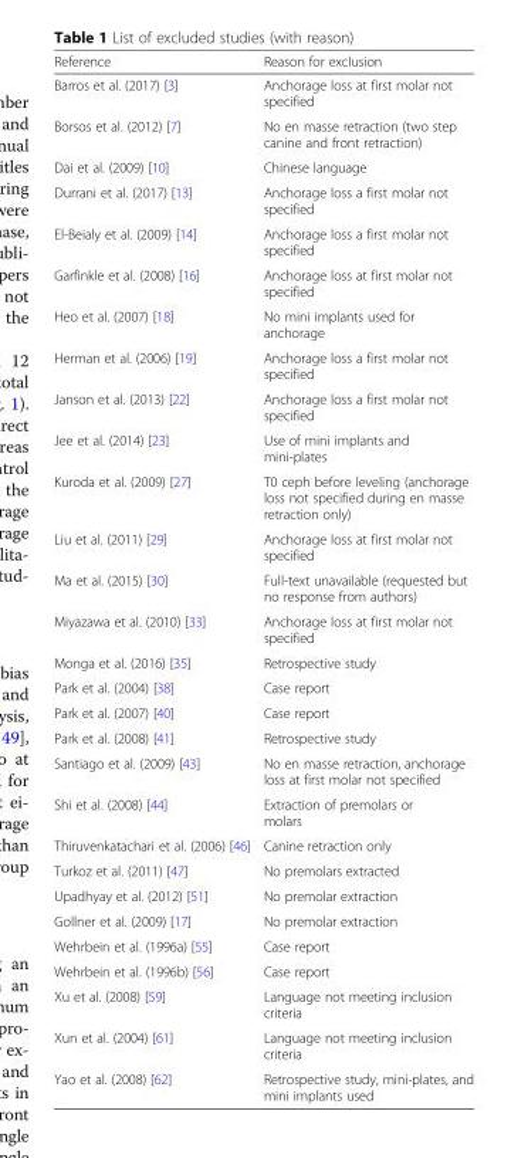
<table><thead><tr><td>Reference</td><td>Reason for exclusion</td></tr></thead><tbody><tr><td>Barros et al. (2017) [3]</td><td>Anchorage loss at first molar not specified</td></tr><tr><td>Borsos et al. (2012) [7]</td><td>No en masse retraction (two step canine and front retraction)</td></tr><tr><td>Dai et al. (2009) [10]</td><td>Chinese language</td></tr><tr><td>Durrani et al. (2017) [13]</td><td>Anchorage loss a first molar not specified</td></tr><tr><td>El-Beialy et al. (2009) [14]</td><td>Anchorage loss a first molar not specified</td></tr><tr><td>Garfinkle et al. (2008) [16]</td><td>Anchorage loss at first molar not specified</td></tr><tr><td>Heo et al. (2007) [18]</td><td>No mini implants used for anchorage</td></tr><tr><td>Herman et al. (2006) [19]</td><td>Anchorage loss a first molar not specified</td></tr><tr><td>Janson et al. (2013) [22]</td><td>Anchorage loss a first molar not specified</td></tr><tr><td>Jee et al. (2014) [23]</td><td>Use of mini implants and mini-plates</td></tr><tr><td>Kuroda et al. (2009) [27]</td><td>T0 ceph before leveling (anchorage loss not specified during en masse retraction only)</td></tr><tr><td>Liu et al. (2011) [29]</td><td>Anchorage loss at first molar not specified</td></tr><tr><td>Ma et al. (2015) [30]</td><td>Full-text unavailable (requested but no response from authors)</td></tr><tr><td>Miyazawa et al. (2010) [33]</td><td>Anchorage loss at first molar not specified</td></tr><tr><td>Monga et al. (2016) [35]</td><td>Retrospective study</td></tr><tr><td>Park et al. (2004) [38]</td><td>Case report</td></tr><tr><td>Park et al. (2007) [40]</td><td>Case report</td></tr><tr><td>Park et al. (2008) [41]</td><td>Retrospective study</td></tr><tr><td>Santiago et al. (2009) [43]</td><td>No en masse retraction, anchorage loss at first molar not specified</td></tr><tr><td>Shi et al. (2008) [44]</td><td>Extraction of premolars or molars</td></tr><tr><td>Thiruvenkatachari et al. (2006) [46]</td><td>Canine retraction only</td></tr><tr><td>Turkoz et al. (2011) [47]</td><td>No premolars extracted</td></tr><tr><td>Upadhyay et al. (2012) [51]</td><td>No premolar extraction</td></tr><tr><td>Gollner et al. (2009) [17]</td><td>No premolar extraction</td></tr><tr><td>Wehrbein et al. (1996a) [55]</td><td>Case report</td></tr><tr><td>Wehrbein et al. (1996b) [56]</td><td>Case report</td></tr><tr><td>Xu et al. (2008) [59]</td><td>Language not meeting inclusion criteria</td></tr><tr><td>Xun et al. (2004) [61]</td><td>Language not meeting inclusion criteria</td></tr><tr><td>Yao et al. (2008) [62]</td><td>Retrospective study, mini-plates, and mini implants used</td></tr></tbody></table>